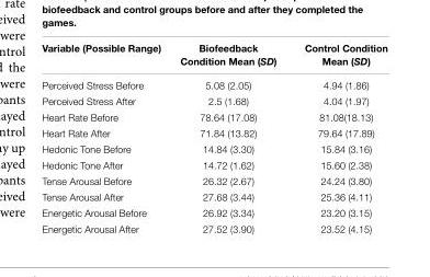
<table><thead><tr><td>Variable (Possible Range)</td><td>Biofeedback Condition Mean (SD)</td><td>Control Condition Mean (SD)</td></tr></thead><tbody><tr><td>Perceived Stress Before</td><td>5.08 (2.05)</td><td>4.94 (1.86)</td></tr><tr><td>Perceived Stress After</td><td>2.5 (1.68)</td><td>4.04 (1.97)</td></tr><tr><td>Heart Rate Before</td><td>78.64 (17.08)</td><td>81.08(18.13)</td></tr><tr><td>Heart Rate After</td><td>71.84 (13.82)</td><td>79.64 (17.89)</td></tr><tr><td>Hedonic Tone Before</td><td>14.84 (3.30)</td><td>15.84 (3.16)</td></tr><tr><td>Hedonic Tone After</td><td>14.72 (1.62)</td><td>15.60 (2.38)</td></tr><tr><td>Tense Arousal Before</td><td>26.32 (2.67)</td><td>24.24 (3.80)</td></tr><tr><td>Tense Arousal After</td><td>27.68 (3.44)</td><td>25.36 (4.11)</td></tr><tr><td>Energetic Arousal Before</td><td>26.92 (3.34)</td><td>23.20 (3.15)</td></tr><tr><td>Energetic Arousal After</td><td>27.52 (3.90)</td><td>23.52 (4.15)</td></tr></tbody></table>